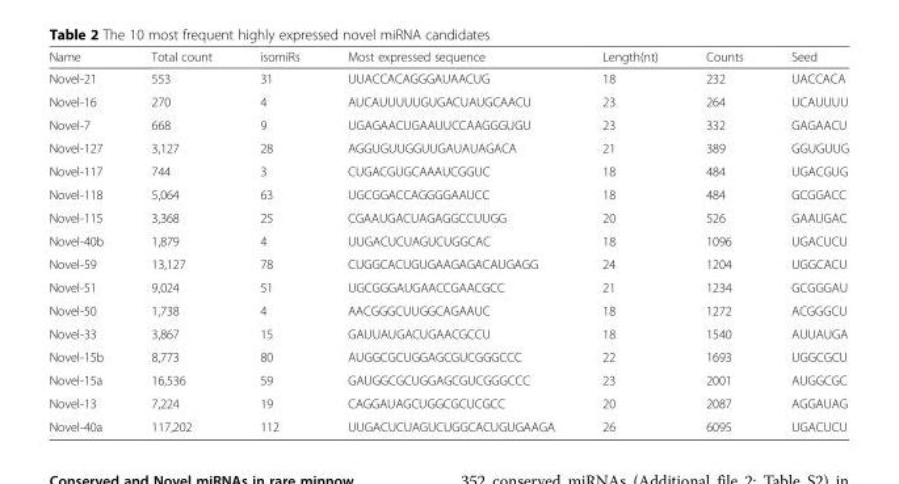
<table><thead><tr><td>Name</td><td>Total count</td><td>isomiRs</td><td>Most expressed sequence</td><td>Length(nt)</td><td>Counts</td><td>Seed</td></tr></thead><tbody><tr><td>Novel-21</td><td>553</td><td>31</td><td>UUACCACAGGGAUAACUG</td><td>18</td><td>232</td><td>UACCACA</td></tr><tr><td>Novel-16</td><td>270</td><td>4</td><td>AUCAUUUUUGUGACUAUGCAACU</td><td>23</td><td>264</td><td>UCAUUUU</td></tr><tr><td>Novel-7</td><td>668</td><td>9</td><td>UGAGAACUGAAUUCCAAGGGUGU</td><td>23</td><td>332</td><td>GAGAACU</td></tr><tr><td>Novel-127</td><td>3,127</td><td>28</td><td>AGGUGUUGGUUGAUAUAGACA</td><td>21</td><td>389</td><td>GGUGUUG</td></tr><tr><td>Novel-117</td><td>744</td><td>3</td><td>CUGACGUGCAAAUCGGUC</td><td>18</td><td>484</td><td>UGACGUG</td></tr><tr><td>Novel-118</td><td>5,064</td><td>63</td><td>UGCGGACCAGGGGAAUCC</td><td>18</td><td>484</td><td>GCGGACC</td></tr><tr><td>Novel-115</td><td>3,368</td><td>25</td><td>CGAAUGACUAGAGGCCUUGG</td><td>20</td><td>526</td><td>GAAUGAC</td></tr><tr><td>Novel-40b</td><td>1,879</td><td>4</td><td>UUGACUCUAGUCUGGCAC</td><td>18</td><td>1096</td><td>UGACUCU</td></tr><tr><td>Novel-59</td><td>13,127</td><td>78</td><td>CUGGCACUGUGAAGAGACAUGAGG</td><td>24</td><td>1204</td><td>UGGCACU</td></tr><tr><td>Novel-51</td><td>9,024</td><td>51</td><td>UGCGGGAUGAACCGAACGCC</td><td>21</td><td>1234</td><td>GCGGGAU</td></tr><tr><td>Novel-50</td><td>1,738</td><td>4</td><td>AACGGGCUUGGCAGAAUC</td><td>18</td><td>1272</td><td>ACGGGCU</td></tr><tr><td>Novel-33</td><td>3,867</td><td>15</td><td>GAUUAUGACUGAACGCCU</td><td>18</td><td>1540</td><td>AUUAUGA</td></tr><tr><td>Novel-15b</td><td>8,773</td><td>80</td><td>AUGGCGCUGGAGCGUCGGGCCC</td><td>22</td><td>1693</td><td>UGGCGCU</td></tr><tr><td>Novel-15a</td><td>16,536</td><td>59</td><td>GAUGGCGCUGGAGCGUCGGGCCC</td><td>23</td><td>2001</td><td>AUGGCGC</td></tr><tr><td>Novel-13</td><td>7,224</td><td>19</td><td>CAGGAUAGCUGGCGCUCGCC</td><td>20</td><td>2087</td><td>AGGAUAG</td></tr><tr><td>Novel-40a</td><td>117,202</td><td>112</td><td>UUGACUCUAGUCUGGCACUGUGAAGA</td><td>26</td><td>6095</td><td>UGACUCU</td></tr></tbody></table>